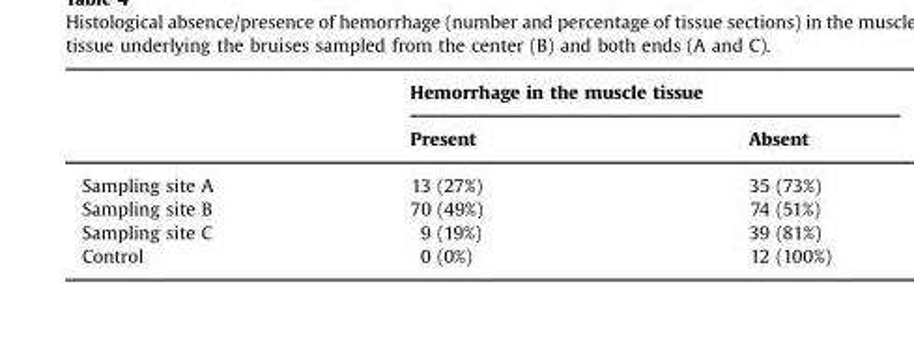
<table><thead><tr><td rowspan="2"></td><td colspan="2">Hemorrhage in the muscle tissue</td></tr><tr><td>Present</td><td>Absent</td></tr></thead><tbody><tr><td>Sampling site A</td><td>13 (27%)</td><td>35 (73%)</td></tr><tr><td>Sampling site B</td><td>70 (49%)</td><td>74 (51%)</td></tr><tr><td>Sampling site C</td><td>9 (19%)</td><td>39 (81%)</td></tr><tr><td>Control</td><td>0 (0%)</td><td>12 (100%)</td></tr></tbody></table>